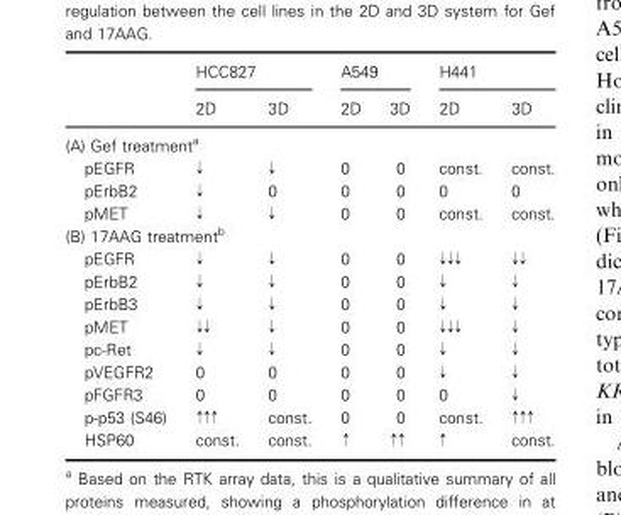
<table><thead><tr><td rowspan="2"></td><td colspan="2">HCC827</td><td colspan="2">A549</td><td colspan="2">H441</td></tr><tr><td>2D</td><td>3D</td><td>2D</td><td>3D</td><td>2D</td><td>3D</td></tr></thead><tbody><tr><td colspan="7">(A) Gef treatment<sup>a</sup></td></tr><tr><td>pEGFR</td><td>↓</td><td>↓</td><td>0</td><td>0</td><td>const.</td><td>const.</td></tr><tr><td>pErbB2</td><td>↓</td><td>0</td><td>0</td><td>0</td><td>0</td><td>0</td></tr><tr><td>pMET</td><td>↓</td><td>↓</td><td>0</td><td>0</td><td>const.</td><td>const.</td></tr><tr><td colspan="7">(B) 17AAG treatment<sup>b</sup></td></tr><tr><td>pEGFR</td><td>↓</td><td>↓</td><td>0</td><td>0</td><td>↓↓↓</td><td>↓↓</td></tr><tr><td>pErbB2</td><td>↓</td><td>↓</td><td>0</td><td>0</td><td>↓</td><td>↓</td></tr><tr><td>pErbB3</td><td>↓</td><td>↓</td><td>0</td><td>0</td><td>↓</td><td>↓</td></tr><tr><td>pMET</td><td>↓↓</td><td>↓</td><td>0</td><td>0</td><td>↓↓↓</td><td>↓</td></tr><tr><td>pc-Ret</td><td>↓</td><td>↓</td><td>0</td><td>0</td><td>↓</td><td>↓</td></tr><tr><td>pVEGFR2</td><td>0</td><td>0</td><td>0</td><td>0</td><td>↓</td><td>↓</td></tr><tr><td>pFGFR3</td><td>0</td><td>0</td><td>0</td><td>0</td><td>0</td><td>↓</td></tr><tr><td>p-p53 (S46)</td><td>↑↑↑</td><td>const.</td><td>0</td><td>0</td><td>const.</td><td>↑↑↑</td></tr><tr><td>HSP60</td><td>const.</td><td>const.</td><td>↑</td><td>↑↑</td><td>↑</td><td>const.</td></tr></tbody></table>